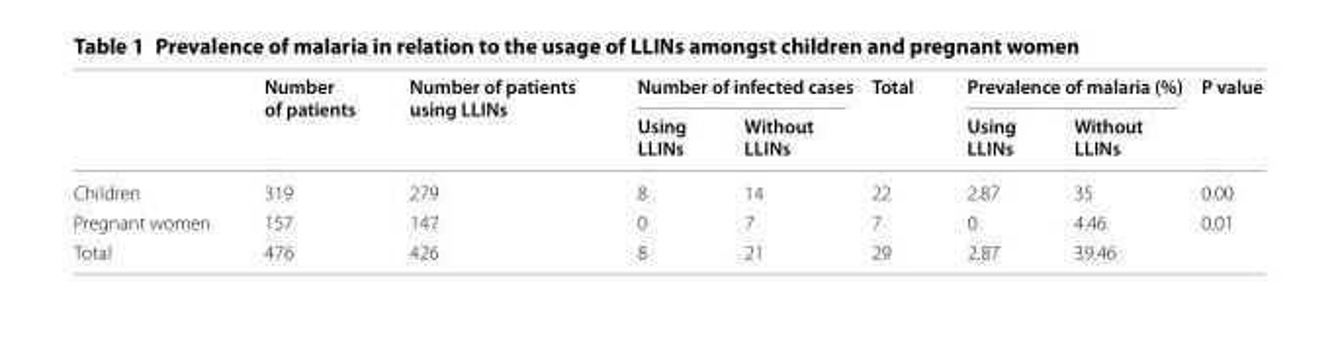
<table><thead><tr><td rowspan="2"></td><td rowspan="2">Number of patients</td><td rowspan="2">Number of patients using LLINs</td><td colspan="2">Number of infected cases</td><td rowspan="2">Total</td><td colspan="2">Prevalence of malaria (%)</td><td rowspan="2">P value</td></tr><tr><td>Using LLINs</td><td>Without LLINs</td><td>Using LLINs</td><td>Without LLINs</td></tr></thead><tbody><tr><td>Children</td><td>319</td><td>279</td><td>8</td><td>14</td><td>22</td><td>2.87</td><td>35</td><td>0.00</td></tr><tr><td>Pregnant women</td><td>157</td><td>147</td><td>0</td><td>7</td><td>7</td><td>0</td><td>4.46</td><td>0.01</td></tr><tr><td>Total</td><td>476</td><td>426</td><td>8</td><td>21</td><td>29</td><td>2.87</td><td>39.46</td><td></td></tr></tbody></table>